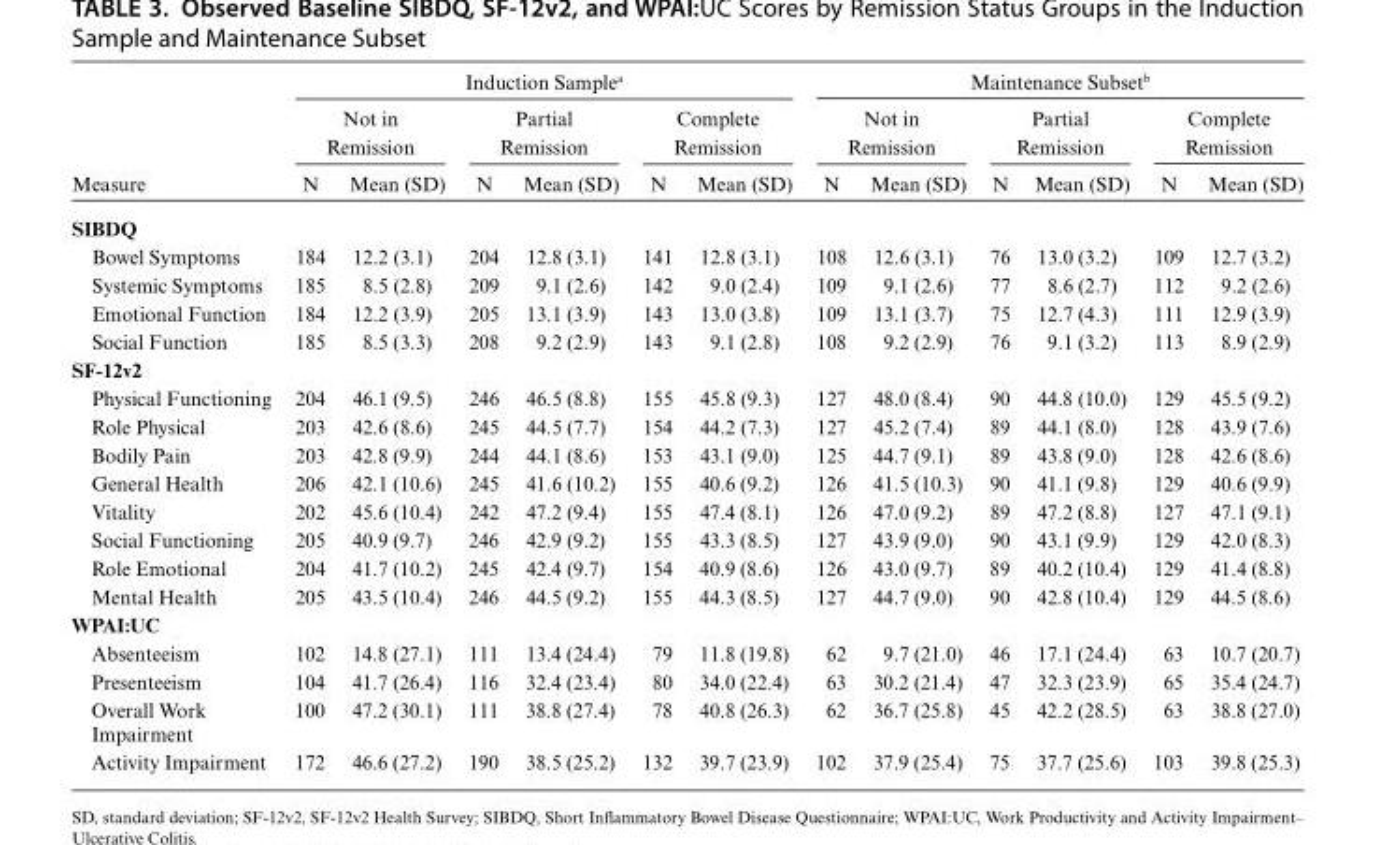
<table><thead><tr><td rowspan="3">Measure</td><td colspan="6">Induction Sample<sup>a</sup></td><td colspan="6">Maintenance Subset<sup>b</sup></td></tr><tr><td colspan="2">Not in Remission</td><td colspan="2">Partial Remission</td><td colspan="2">Complete Remission</td><td colspan="2">Not in Remission</td><td colspan="2">Partial Remission</td><td colspan="2">Complete Remission</td></tr><tr><td>N</td><td>Mean (SD)</td><td>N</td><td>Mean (SD)</td><td>N</td><td>Mean (SD)</td><td>N</td><td>Mean (SD)</td><td>N</td><td>Mean (SD)</td><td>N</td><td>Mean (SD)</td></tr></thead><tbody><tr><td colspan="13">SIBDQ</td></tr><tr><td>Bowel Symptoms</td><td>184</td><td>12.2 (3.1)</td><td>204</td><td>12.8 (3.1)</td><td>141</td><td>12.8 (3.1)</td><td>108</td><td>12.6 (3.1)</td><td>76</td><td>13.0 (3.2)</td><td>109</td><td>12.7 (3.2)</td></tr><tr><td>Systemic Symptoms</td><td>185</td><td>8.5 (2.8)</td><td>209</td><td>9.1 (2.6)</td><td>142</td><td>9.0 (2.4)</td><td>109</td><td>9.1 (2.6)</td><td>77</td><td>8.6 (2.7)</td><td>112</td><td>9.2 (2.6)</td></tr><tr><td>Emotional Function</td><td>184</td><td>12.2 (3.9)</td><td>205</td><td>13.1 (3.9)</td><td>143</td><td>13.0 (3.8)</td><td>109</td><td>13.1 (3.7)</td><td>75</td><td>12.7 (4.3)</td><td>111</td><td>12.9 (3.9)</td></tr><tr><td>Social Function</td><td>185</td><td>8.5 (3.3)</td><td>208</td><td>9.2 (2.9)</td><td>143</td><td>9.1 (2.8)</td><td>108</td><td>9.2 (2.9)</td><td>76</td><td>9.1 (3.2)</td><td>113</td><td>8.9 (2.9)</td></tr><tr><td colspan="13">SF-12v2</td></tr><tr><td>Physical Functioning</td><td>204</td><td>46.1 (9.5)</td><td>246</td><td>46.5 (8.8)</td><td>155</td><td>45.8 (9.3)</td><td>127</td><td>48.0 (8.4)</td><td>90</td><td>44.8 (10.0)</td><td>129</td><td>45.5 (9.2)</td></tr><tr><td>Role Physical</td><td>203</td><td>42.6 (8.6)</td><td>245</td><td>44.5 (7.7)</td><td>154</td><td>44.2 (7.3)</td><td>127</td><td>45.2 (7.4)</td><td>89</td><td>44.1 (8.0)</td><td>128</td><td>43.9 (7.6)</td></tr><tr><td>Bodily Pain</td><td>203</td><td>42.8 (9.9)</td><td>244</td><td>44.1 (8.6)</td><td>153</td><td>43.1 (9.0)</td><td>125</td><td>44.7 (9.1)</td><td>89</td><td>43.8 (9.0)</td><td>128</td><td>42.6 (8.6)</td></tr><tr><td>General Health</td><td>206</td><td>42.1 (10.6)</td><td>245</td><td>41.6 (10.2)</td><td>155</td><td>40.6 (9.2)</td><td>126</td><td>41.5 (10.3)</td><td>90</td><td>41.1 (9.8)</td><td>129</td><td>40.6 (9.9)</td></tr><tr><td>Vitality</td><td>202</td><td>45.6 (10.4)</td><td>242</td><td>47.2 (9.4)</td><td>155</td><td>47.4 (8.1)</td><td>126</td><td>47.0 (9.2)</td><td>89</td><td>47.2 (8.8)</td><td>127</td><td>47.1 (9.1)</td></tr><tr><td>Social Functioning</td><td>205</td><td>40.9 (9.7)</td><td>246</td><td>42.9 (9.2)</td><td>155</td><td>43.3 (8.5)</td><td>127</td><td>43.9 (9.0)</td><td>90</td><td>43.1 (9.9)</td><td>129</td><td>42.0 (8.3)</td></tr><tr><td>Role Emotional</td><td>204</td><td>41.7 (10.2)</td><td>245</td><td>42.4 (9.7)</td><td>154</td><td>40.9 (8.6)</td><td>126</td><td>43.0 (9.7)</td><td>89</td><td>40.2 (10.4)</td><td>129</td><td>41.4 (8.8)</td></tr><tr><td>Mental Health</td><td>205</td><td>43.5 (10.4)</td><td>246</td><td>44.5 (9.2)</td><td>155</td><td>44.3 (8.5)</td><td>127</td><td>44.7 (9.0)</td><td>90</td><td>42.8 (10.4)</td><td>129</td><td>44.5 (8.6)</td></tr><tr><td colspan="13">WPAI:UC</td></tr><tr><td>Absenteeism</td><td>102</td><td>14.8 (27.1)</td><td>111</td><td>13.4 (24.4)</td><td>79</td><td>11.8 (19.8)</td><td>62</td><td>9.7 (21.0)</td><td>46</td><td>17.1 (24.4)</td><td>63</td><td>10.7 (20.7)</td></tr><tr><td>Presenteeism</td><td>104</td><td>41.7 (26.4)</td><td>116</td><td>32.4 (23.4)</td><td>80</td><td>34.0 (22.4)</td><td>63</td><td>30.2 (21.4)</td><td>47</td><td>32.3 (23.9)</td><td>65</td><td>35.4 (24.7)</td></tr><tr><td>Overall Work Impairment</td><td>100</td><td>47.2 (30.1)</td><td>111</td><td>38.8 (27.4)</td><td>78</td><td>40.8 (26.3)</td><td>62</td><td>36.7 (25.8)</td><td>45</td><td>42.2 (28.5)</td><td>63</td><td>38.8 (27.0)</td></tr><tr><td>Activity Impairment</td><td>172</td><td>46.6 (27.2)</td><td>190</td><td>38.5 (25.2)</td><td>132</td><td>39.7 (23.9)</td><td>102</td><td>37.9 (25.4)</td><td>75</td><td>37.7 (25.6)</td><td>103</td><td>39.8 (25.3)</td></tr></tbody></table>